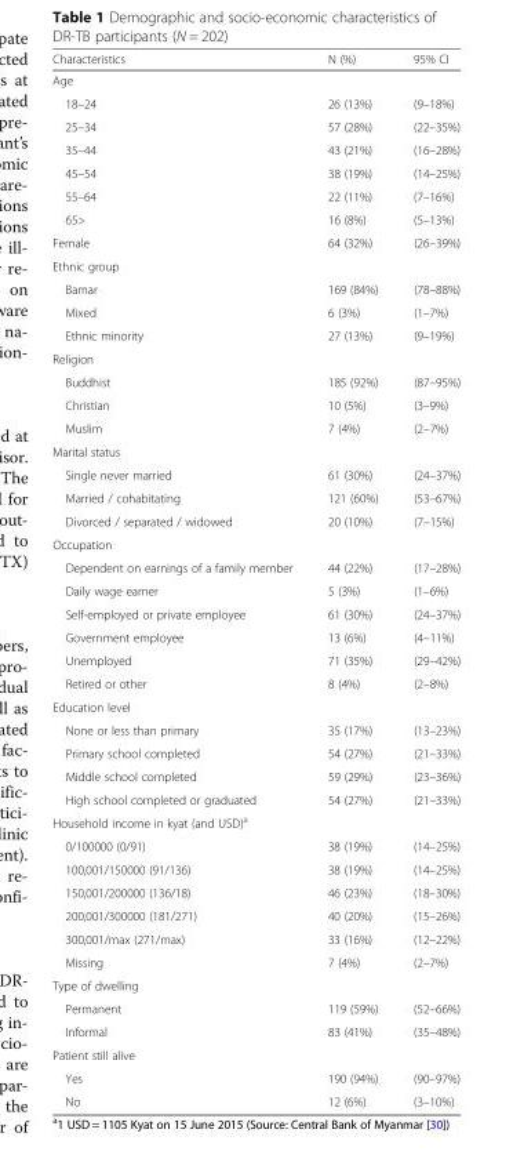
<table><thead><tr><td>Characteristics</td><td>N (%)</td><td>95% CI</td></tr></thead><tbody><tr><td colspan="3">Age</td></tr><tr><td>18–24</td><td>26 (13%)</td><td>(9–18%)</td></tr><tr><td>25–34</td><td>57 (28%)</td><td>(22–35%)</td></tr><tr><td>35–44</td><td>43 (21%)</td><td>(16–28%)</td></tr><tr><td>45–54</td><td>38 (19%)</td><td>(14–25%)</td></tr><tr><td>55–64</td><td>22 (11%)</td><td>(7–16%)</td></tr><tr><td>65&gt;</td><td>16 (8%)</td><td>(5–13%)</td></tr><tr><td>Female</td><td>64 (32%)</td><td>(26–39%)</td></tr><tr><td colspan="3">Ethnic group</td></tr><tr><td>Bamar</td><td>169 (84%)</td><td>(78–88%)</td></tr><tr><td>Mixed</td><td>6 (3%)</td><td>(1–7%)</td></tr><tr><td>Ethnic minority</td><td>27 (13%)</td><td>(9–19%)</td></tr><tr><td colspan="3">Religion</td></tr><tr><td>Buddhist</td><td>185 (92%)</td><td>(87–95%)</td></tr><tr><td>Christian</td><td>10 (5%)</td><td>(3–9%)</td></tr><tr><td>Muslim</td><td>7 (4%)</td><td>(2–7%)</td></tr><tr><td colspan="3">Marital status</td></tr><tr><td>Single never married</td><td>61 (30%)</td><td>(24–37%)</td></tr><tr><td>Married / cohabitating</td><td>121 (60%)</td><td>(53–67%)</td></tr><tr><td>Divorced / separated / widowed</td><td>20 (10%)</td><td>(7–15%)</td></tr><tr><td colspan="3">Occupation</td></tr><tr><td>Dependent on earnings of a family member</td><td>44 (22%)</td><td>(17–28%)</td></tr><tr><td>Daily wage earner</td><td>5 (3%)</td><td>(1–6%)</td></tr><tr><td>Self-employed or private employee</td><td>61 (30%)</td><td>(24–37%)</td></tr><tr><td>Government employee</td><td>13 (6%)</td><td>(4–11%)</td></tr><tr><td>Unemployed</td><td>71 (35%)</td><td>(29–42%)</td></tr><tr><td>Retired or other</td><td>8 (4%)</td><td>(2–8%)</td></tr><tr><td colspan="3">Education level</td></tr><tr><td>None or less than primary</td><td>35 (17%)</td><td>(13–23%)</td></tr><tr><td>Primary school completed</td><td>54 (27%)</td><td>(21–33%)</td></tr><tr><td>Middle school completed</td><td>59 (29%)</td><td>(23–36%)</td></tr><tr><td>High school completed or graduated</td><td>54 (27%)</td><td>(21–33%)</td></tr><tr><td colspan="3">Household income in kyat (and USD)<sup>a</sup></td></tr><tr><td>0/100000 (0/91)</td><td>38 (19%)</td><td>(14–25%)</td></tr><tr><td>100,001/150000 (91/136)</td><td>38 (19%)</td><td>(14–25%)</td></tr><tr><td>150,001/200000 (136/18)</td><td>46 (23%)</td><td>(18–30%)</td></tr><tr><td>200,001/300000 (181/271)</td><td>40 (20%)</td><td>(15–26%)</td></tr><tr><td>300,001/max (271/max)</td><td>33 (16%)</td><td>(12–22%)</td></tr><tr><td>Missing</td><td>7 (4%)</td><td>(2–7%)</td></tr><tr><td colspan="3">Type of dwelling</td></tr><tr><td>Permanent</td><td>119 (59%)</td><td>(52–66%)</td></tr><tr><td>Informal</td><td>83 (41%)</td><td>(35–48%)</td></tr><tr><td colspan="3">Patient still alive</td></tr><tr><td>Yes</td><td>190 (94%)</td><td>(90–97%)</td></tr><tr><td>No</td><td>12 (6%)</td><td>(3–10%)</td></tr></tbody></table>